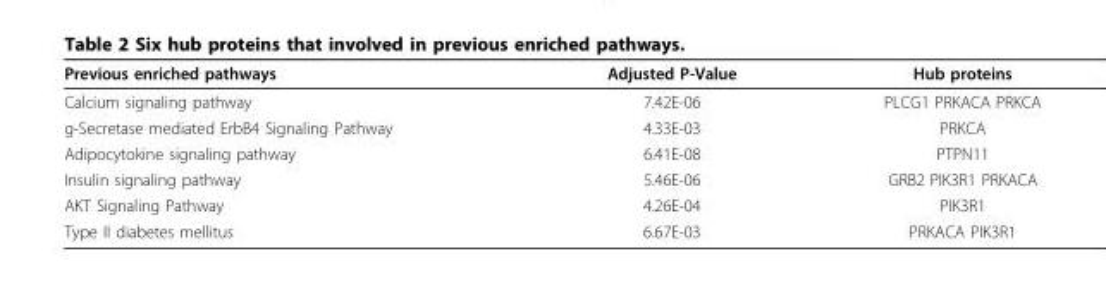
<table><thead><tr><td>Previous enriched pathways</td><td>Adjusted P-Value</td><td>Hub proteins</td></tr></thead><tbody><tr><td>Calcium signaling pathway</td><td>7.42E-06</td><td>PLCG1 PRKACA PRKCA</td></tr><tr><td>g-Secretase mediated ErbB4 Signaling Pathway</td><td>4.33E-03</td><td>PRKCA</td></tr><tr><td>Adipocytokine signaling pathway</td><td>6.41E-08</td><td>PTPN11</td></tr><tr><td>Insulin signaling pathway</td><td>5.46E-06</td><td>GRB2 PIK3R1 PRKACA</td></tr><tr><td>AKT Signaling Pathway</td><td>4.26E-04</td><td>PIK3R1</td></tr><tr><td>Type II diabetes mellitus</td><td>6.67E-03</td><td>PRKACA PIK3R1</td></tr></tbody></table>